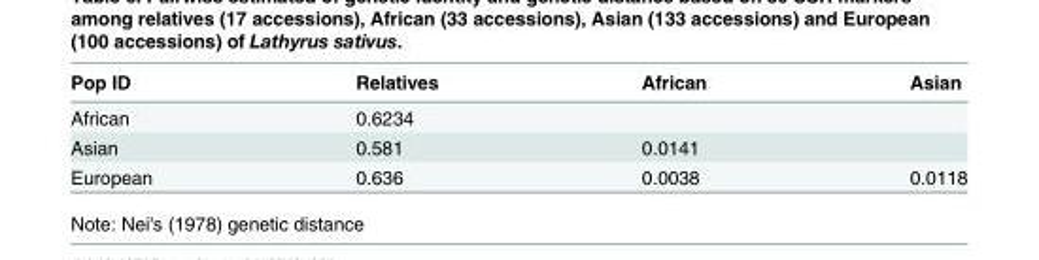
<table><thead><tr><td>Pop ID</td><td>Relatives</td><td>African</td><td>Asian</td></tr></thead><tbody><tr><td>African</td><td>0.6234</td><td></td><td></td></tr><tr><td>Asian</td><td>0.581</td><td>0.0141</td><td></td></tr><tr><td>European</td><td>0.636</td><td>0.0038</td><td>0.0118</td></tr></tbody></table>